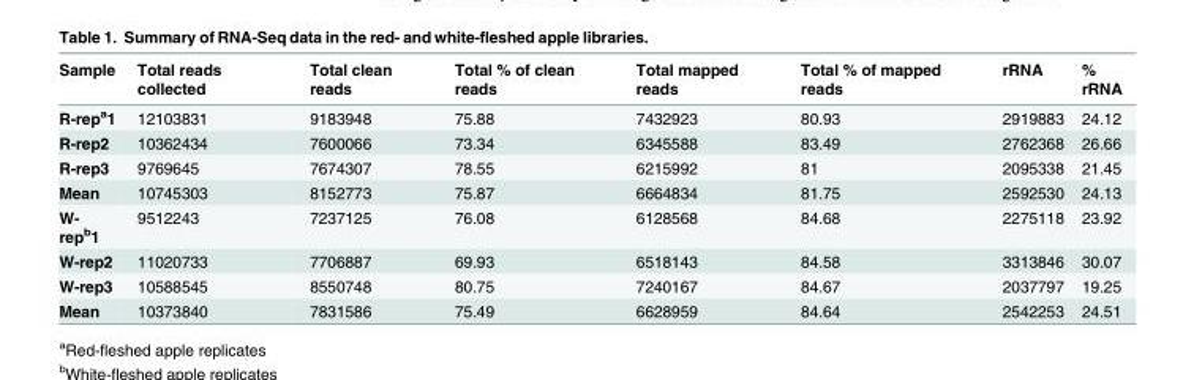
<table><thead><tr><td>Sample</td><td>Total reads collected</td><td>Total clean reads</td><td>Total % of clean reads</td><td>Total mapped reads</td><td>Total % of mapped reads</td><td>rRNA</td><td>% rRNA</td></tr></thead><tbody><tr><td>R-rep<sup>a</sup>1</td><td>12103831</td><td>9183948</td><td>75.88</td><td>7432923</td><td>80.93</td><td>2919883</td><td>24.12</td></tr><tr><td>R-rep2</td><td>10362434</td><td>7600066</td><td>73.34</td><td>6345588</td><td>83.49</td><td>2762368</td><td>26.66</td></tr><tr><td>R-rep3</td><td>9769645</td><td>7674307</td><td>78.55</td><td>6215992</td><td>81</td><td>2095338</td><td>21.45</td></tr><tr><td>Mean</td><td>10745303</td><td>8152773</td><td>75.87</td><td>6664834</td><td>81.75</td><td>2592530</td><td>24.13</td></tr><tr><td>W- rep<sup>b</sup>1</td><td>9512243</td><td>7237125</td><td>76.08</td><td>6128568</td><td>84.68</td><td>2275118</td><td>23.92</td></tr><tr><td>W-rep2</td><td>11020733</td><td>7706887</td><td>69.93</td><td>6518143</td><td>84.58</td><td>3313846</td><td>30.07</td></tr><tr><td>W-rep3</td><td>10588545</td><td>8550748</td><td>80.75</td><td>7240167</td><td>84.67</td><td>2037797</td><td>19.25</td></tr><tr><td>Mean</td><td>10373840</td><td>7831586</td><td>75.49</td><td>6628959</td><td>84.64</td><td>2542253</td><td>24.51</td></tr></tbody></table>